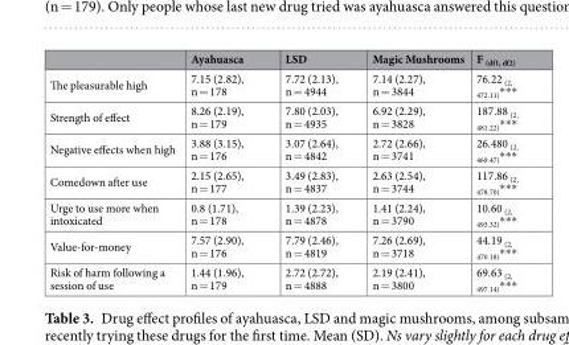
<table><thead><tr><td></td><td>Ayahuasca</td><td>LSD</td><td>Magic Mushrooms</td><td>F <sub>(df1, df2)</sub></td></tr></thead><tbody><tr><td>The pleasurable high</td><td>7.15 (2.82), n = 178</td><td>7.72 (2.13), n = 4944</td><td>7.14 (2.27), n = 3844</td><td>76.22 <sub>(2, 472.11)</sub>***</td></tr><tr><td>Strength of effect</td><td>8.26 (2.19), n = 179</td><td>7.80 (2.03), n = 4935</td><td>6.92 (2.29), n = 3828</td><td>187.88 <sub>(2, 481.22)</sub>***</td></tr><tr><td>Negative effects when high</td><td>3.88 (3.15), n = 176</td><td>3.07 (2.64), n = 4842</td><td>2.72 (2.66), n = 3741</td><td>26.480 <sub>(2, 469.47)</sub>***</td></tr><tr><td>Comedown after use</td><td>2.15 (2.65), n = 177</td><td>3.49 (2.83), n = 4837</td><td>2.63 (2.54), n = 3744</td><td>117.86 <sub>(2, 478.70)</sub>***</td></tr><tr><td>Urge to use more when intoxicated</td><td>0.8 (1.71), n = 178</td><td>1.39 (2.23), n = 4878</td><td>1.41 (2.24), n = 3790</td><td>10.60 <sub>(2, 493.32)</sub>***</td></tr><tr><td>Value-for-money</td><td>7.57 (2.90), n = 176</td><td>7.79 (2.46), n = 4819</td><td>7.26 (2.69), n = 3718</td><td>44.19 <sub>(2, 470.18)</sub>***</td></tr><tr><td>Risk of harm following a session of use</td><td>1.44 (1.96), n = 179</td><td>2.72 (2.72), n = 4888</td><td>2.19 (2.41), n = 3800</td><td>69.63 <sub>(2, 497.14)</sub>***</td></tr></tbody></table>